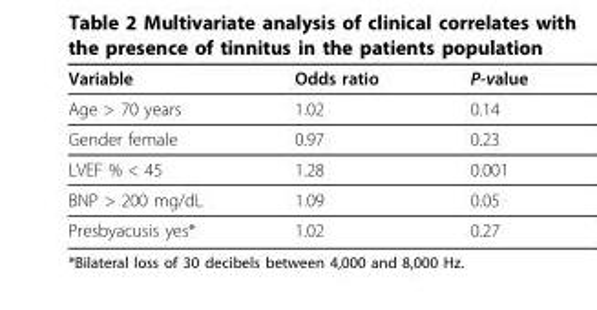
<table><thead><tr><td>Variable</td><td>Odds ratio</td><td>P-value</td></tr></thead><tbody><tr><td>Age &gt; 70 years</td><td>1.02</td><td>0.14</td></tr><tr><td>Gender female</td><td>0.97</td><td>0.23</td></tr><tr><td>LVEF % &lt; 45</td><td>1.28</td><td>0.001</td></tr><tr><td>BNP &gt; 200 mg/dL</td><td>1.09</td><td>0.05</td></tr><tr><td>Presbyacusis yes*</td><td>1.02</td><td>0.27</td></tr></tbody></table>